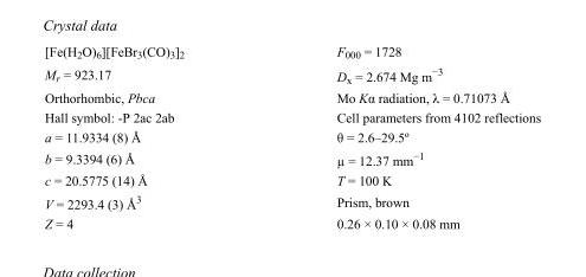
<table><tbody><tr><td>[Fe(H<sub>2</sub>O)<sub>6</sub>][FeBr<sub>3</sub>(CO)<sub>3</sub>]<sub>2</sub></td><td>F000 = 1728</td></tr><tr><td>M<sub>r</sub> = 923.17</td><td>D<sub>x</sub> = 2.674 Mg m<sup>−3</sup></td></tr><tr><td>Orthorhombic, Pbca</td><td>Mo Kα radiation, λ = 0.71073 Å</td></tr><tr><td>Hall symbol: -P 2ac 2ab</td><td>Cell parameters from 4102 reflections</td></tr><tr><td>a = 11.9334 (8) Å</td><td>θ = 2.6–29.5º</td></tr><tr><td>b = 9.3394 (6) Å</td><td>µ = 12.37 mm<sup>−1</sup></td></tr><tr><td>c = 20.5775 (14) Å</td><td>T = 100 K</td></tr><tr><td>V = 2293.4 (3) Å<sup>3</sup></td><td>Prism, brown</td></tr><tr><td>Z = 4</td><td>0.26 × 0.10 × 0.08 mm</td></tr></tbody></table>